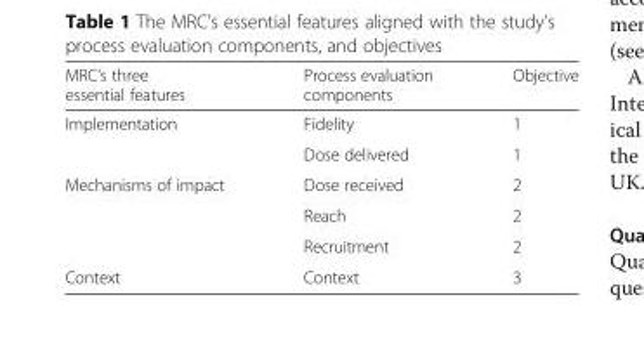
<table><thead><tr><td>MRC’s three essential features</td><td>Process evaluation components</td><td>Objective</td></tr></thead><tbody><tr><td rowspan="2">Implementation</td><td>Fidelity</td><td>1</td></tr><tr><td>Dose delivered</td><td>1</td></tr><tr><td rowspan="3">Mechanisms of impact</td><td>Dose received</td><td>2</td></tr><tr><td>Reach</td><td>2</td></tr><tr><td>Recruitment</td><td>2</td></tr><tr><td>Context</td><td>Context</td><td>3</td></tr></tbody></table>